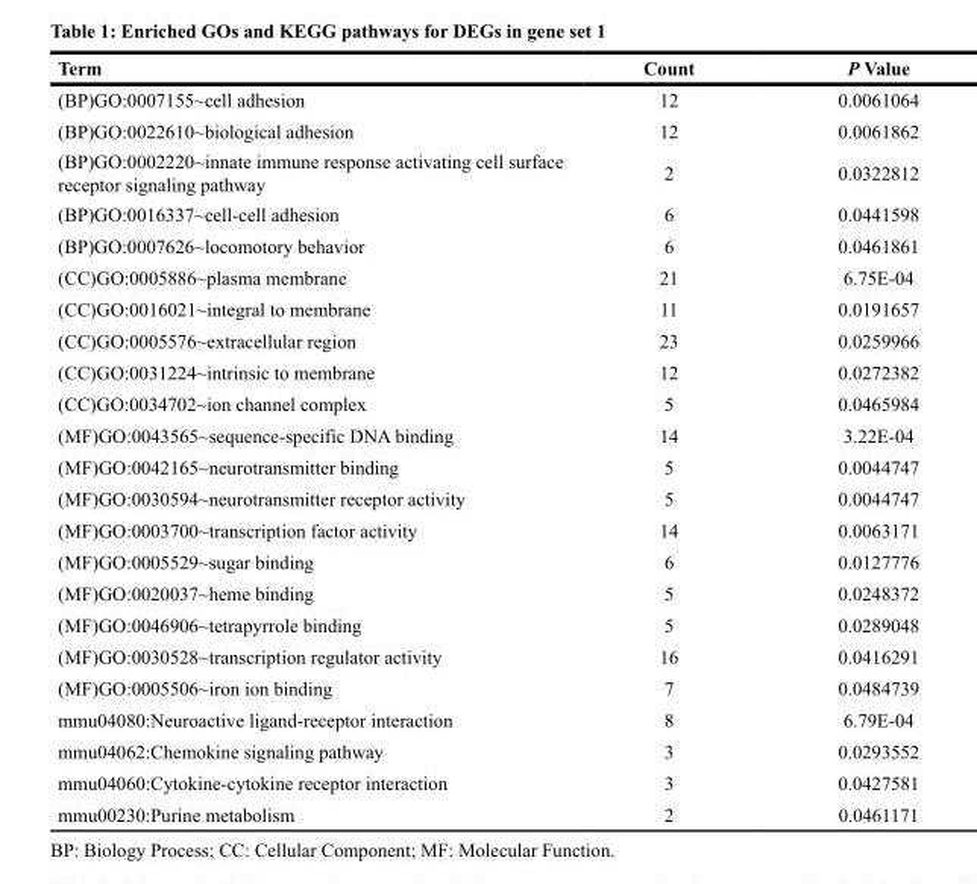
<table><thead><tr><td>term</td><td>count</td><td>P Value</td></tr></thead><tbody><tr><td>(BP)GO:0007155~cell adhesion</td><td>12</td><td>0.0061064</td></tr><tr><td>(BP)GO:0022610~biological adhesion</td><td>12</td><td>0.0061862</td></tr><tr><td>(BP)GO:0002220~innate immune response activating cell surface receptor signaling pathway</td><td>2</td><td>0.0322812</td></tr><tr><td>(BP)GO:0016337~cell-cell adhesion</td><td>6</td><td>0.0441598</td></tr><tr><td>(BP)GO:0007626~locomotory behavior</td><td>6</td><td>0.0461861</td></tr><tr><td>(CC)GO:0005886~plasma membrane</td><td>21</td><td>6.75E-04</td></tr><tr><td>(CC)GO:0016021~integral to membrane</td><td>11</td><td>0.0191657</td></tr><tr><td>(CC)GO:0005576~extracellular region</td><td>23</td><td>0.0259966</td></tr><tr><td>(CC)GO:0031224~intrinsic to membrane</td><td>12</td><td>0.0272382</td></tr><tr><td>(CC)GO:0034702~ion channel complex</td><td>5</td><td>0.0465984</td></tr><tr><td>(MF)GO:0043565~sequence-specific DNA binding</td><td>14</td><td>3.22E-04</td></tr><tr><td>(MF)GO:0042165~neurotransmitter binding</td><td>5</td><td>0.0044747</td></tr><tr><td>(MF)GO:0030594~neurotransmitter receptor activity</td><td>5</td><td>0.0044747</td></tr><tr><td>(MF)GO:0003700~transcription factor activity</td><td>14</td><td>0.0063171</td></tr><tr><td>(MF)GO:0005529~sugar binding</td><td>6</td><td>0.0127776</td></tr><tr><td>(MF)GO:0020037~heme binding</td><td>5</td><td>0.0248372</td></tr><tr><td>(MF)GO:0046906~tetrapyrrole binding</td><td>5</td><td>0.0289048</td></tr><tr><td>(MF)GO:0030528~transcription regulator activity</td><td>16</td><td>0.0416291</td></tr><tr><td>(MF)GO:0005506~iron ion binding</td><td>7</td><td>0.0484739</td></tr><tr><td>mmu04080:Neuroactive ligand-receptor interaction</td><td>8</td><td>6.79E-04</td></tr><tr><td>mmu04062:Chemokine signaling pathway</td><td>3</td><td>0.0293552</td></tr><tr><td>mmu04060:Cytokine-cytokine receptor interaction</td><td>3</td><td>0.0427581</td></tr><tr><td>mmu00230:Purine metabolism</td><td>2</td><td>0.0461171</td></tr></tbody></table>